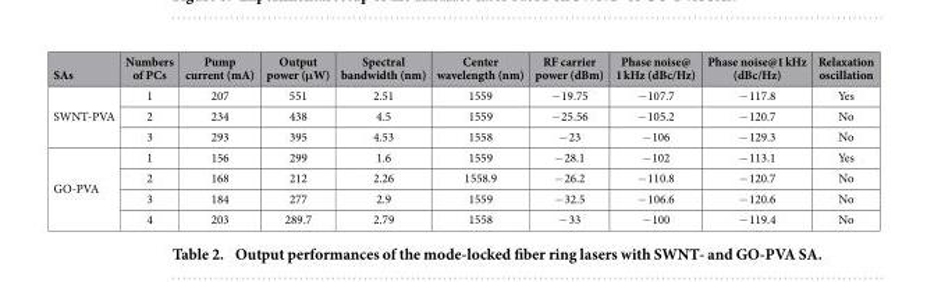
<table><thead><tr><td>SAs</td><td>Numbers of PCs</td><td>Pump current (mA)</td><td>Output power (μW)</td><td>Spectral bandwidth (nm)</td><td>Center wavelength (nm)</td><td>RF carrier power (dBm)</td><td>Phase noise@ 1 kHz (dBc/Hz)</td><td>Phase noise@1 kHz (dBc/Hz)</td><td>Relaxation oscillation</td></tr></thead><tbody><tr><td rowspan="3">SWNT-PVA</td><td>1</td><td>207</td><td>551</td><td>2.51</td><td>1559</td><td>− 19.75</td><td>− 107.7</td><td>− 117.8</td><td>Yes</td></tr><tr><td>2</td><td>234</td><td>438</td><td>4.5</td><td>1559</td><td>− 25.56</td><td>− 105.2</td><td>− 120.7</td><td>No</td></tr><tr><td>3</td><td>293</td><td>395</td><td>4.53</td><td>1558</td><td>− 23</td><td>− 106</td><td>− 129.3</td><td>No</td></tr><tr><td rowspan="4">GO-PVA</td><td>1</td><td>156</td><td>299</td><td>1.6</td><td>1559</td><td>− 28.1</td><td>− 102</td><td>− 113.1</td><td>Yes</td></tr><tr><td>2</td><td>168</td><td>212</td><td>2.26</td><td>1558.9</td><td>− 26.2</td><td>− 110.8</td><td>− 120.7</td><td>No</td></tr><tr><td>3</td><td>184</td><td>277</td><td>2.9</td><td>1559</td><td>− 32.5</td><td>− 106.6</td><td>− 120.6</td><td>No</td></tr><tr><td>4</td><td>203</td><td>289.7</td><td>2.79</td><td>1558</td><td>− 33</td><td>− 100</td><td>− 119.4</td><td>No</td></tr></tbody></table>